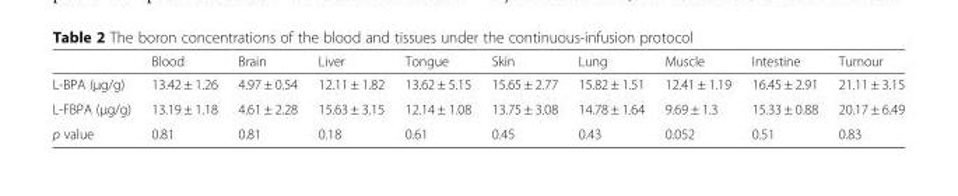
<table><thead><tr><td></td><td>Blood</td><td>Brain</td><td>Liver</td><td>Tongue</td><td>Skin</td><td>Lung</td><td>Muscle</td><td>Intestine</td><td>Tumour</td></tr></thead><tbody><tr><td>L-BPA (μg/g)</td><td>13.42 ± 1.26</td><td>4.97 ± 0.54</td><td>12.11 ± 1.82</td><td>13.62 ± 5.15</td><td>15.65 ± 2.77</td><td>15.82 ± 1.51</td><td>12.41 ± 1.19</td><td>16.45 ± 2.91</td><td>21.11 ± 3.15</td></tr><tr><td>L-FBPA (μg/g)</td><td>13.19 ± 1.18</td><td>4.61 ± 2.28</td><td>15.63 ± 3.15</td><td>12.14 ± 1.08</td><td>13.75 ± 3.08</td><td>14.78 ± 1.64</td><td>9.69 ± 1.3</td><td>15.33 ± 0.88</td><td>20.17 ± 6.49</td></tr><tr><td>p value</td><td>0.81</td><td>0.81</td><td>0.18</td><td>0.61</td><td>0.45</td><td>0.43</td><td>0.052</td><td>0.51</td><td>0.83</td></tr></tbody></table>